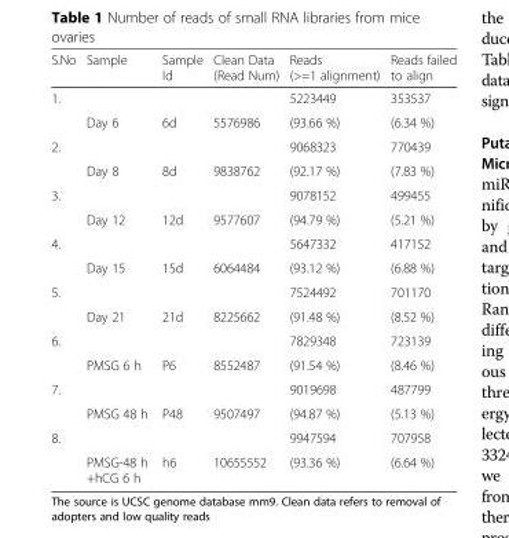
<table><thead><tr><td>S.No</td><td>Sample</td><td>Sample Id</td><td>Clean Data (Read Num)</td><td>Reads (&gt;=1 alignment)</td><td>Reads failed to align</td></tr></thead><tbody><tr><td rowspan="2">1.</td><td></td><td></td><td></td><td>5223449</td><td>353537</td></tr><tr><td>Day 6</td><td>6d</td><td>5576986</td><td>(93.66 %)</td><td>(6.34 %)</td></tr><tr><td rowspan="2">2.</td><td></td><td></td><td></td><td>9068323</td><td>770439</td></tr><tr><td>Day 8</td><td>8d</td><td>9838762</td><td>(92.17 %)</td><td>(7.83 %)</td></tr><tr><td rowspan="2">3.</td><td></td><td></td><td></td><td>9078152</td><td>499455</td></tr><tr><td>Day 12</td><td>12d</td><td>9577607</td><td>(94.79 %)</td><td>(5.21 %)</td></tr><tr><td rowspan="2">4.</td><td></td><td></td><td></td><td>5647332</td><td>417152</td></tr><tr><td>Day 15</td><td>15d</td><td>6064484</td><td>(93.12 %)</td><td>(6.88 %)</td></tr><tr><td rowspan="2">5.</td><td></td><td></td><td></td><td>7524492</td><td>701170</td></tr><tr><td>Day 21</td><td>21d</td><td>8225662</td><td>(91.48 %)</td><td>(8.52 %)</td></tr><tr><td rowspan="2">6.</td><td></td><td></td><td></td><td>7829348</td><td>723139</td></tr><tr><td>PMSG 6 h</td><td>P6</td><td>8552487</td><td>(91.54 %)</td><td>(8.46 %)</td></tr><tr><td rowspan="2">7.</td><td></td><td></td><td></td><td>9019698</td><td>487799</td></tr><tr><td>PMSG 48 h</td><td>P48</td><td>9507497</td><td>(94.87 %)</td><td>(5.13 %)</td></tr><tr><td rowspan="2">8.</td><td></td><td></td><td></td><td>9947594</td><td>707958</td></tr><tr><td>PMSG-48 h +hCG 6 h</td><td>h6</td><td>10655552</td><td>(93.36 %)</td><td>(6.64 %)</td></tr></tbody></table>